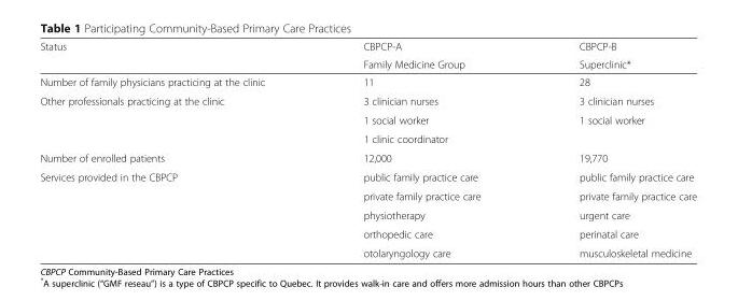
<table><thead><tr><td rowspan="2">Status</td><td rowspan="2">CBPCP-A Family Medicine Group</td><td rowspan="2">CBPCP-B Superclinic*</td></tr><tr></tr></thead><tbody><tr><td>Number of family physicians practicing at the clinic</td><td>11</td><td>28</td></tr><tr><td rowspan="3">Other professionals practicing at the clinic</td><td>3 clinician nurses</td><td>3 clinician nurses</td></tr><tr><td>1 social worker</td><td>1 social worker</td></tr><tr><td>1 clinic coordinator</td><td></td></tr><tr><td>Number of enrolled patients</td><td>12,000</td><td>19,770</td></tr><tr><td rowspan="5">Services provided in the CBPCP</td><td>public family practice care</td><td>public family practice care</td></tr><tr><td>private family practice care</td><td>private family practice care</td></tr><tr><td>physiotherapy</td><td>urgent care</td></tr><tr><td>orthopedic care</td><td>perinatal care</td></tr><tr><td>otolaryngology care</td><td>musculoskeletal medicine</td></tr></tbody></table>